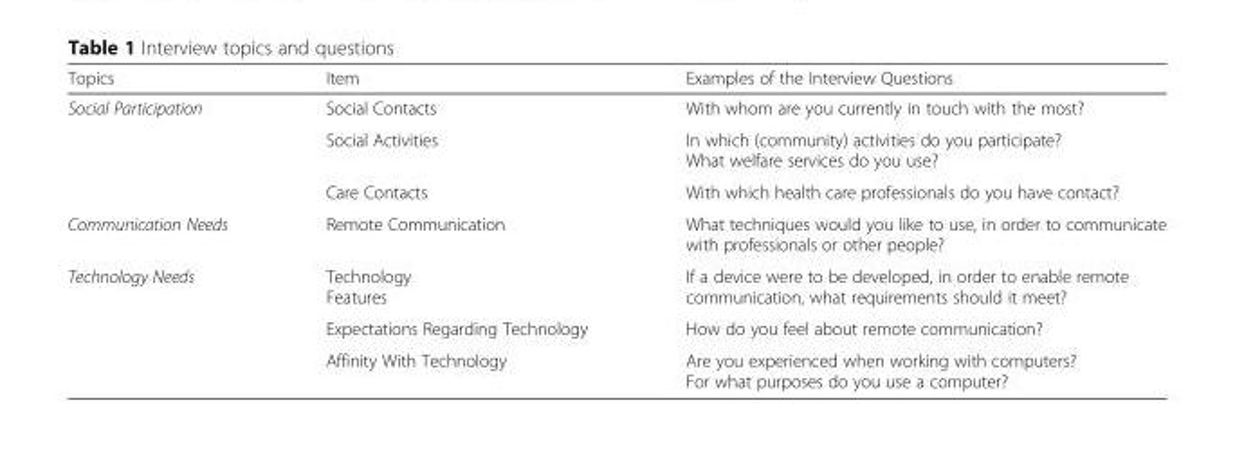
<table><thead><tr><td>Topics</td><td>Item</td><td>Examples of the Interview Questions</td></tr></thead><tbody><tr><td rowspan="3">Social Participation</td><td>Social Contacts</td><td>With whom are you currently in touch with the most?</td></tr><tr><td>Social Activities</td><td>In which (community) activities do you participate? What welfare services do you use?</td></tr><tr><td>Care Contacts</td><td>With which health care professionals do you have contact?</td></tr><tr><td>Communication Needs</td><td>Remote Communication</td><td>What techniques would you like to use, in order to communicate with professionals or other people?</td></tr><tr><td rowspan="3">Technology Needs</td><td>Technology Features</td><td>If a device were to be developed, in order to enable remote communication, what requirements should it meet?</td></tr><tr><td>Expectations Regarding Technology</td><td>How do you feel about remote communication?</td></tr><tr><td>Affinity With Technology</td><td>Are you experienced when working with computers? For what purposes do you use a computer?</td></tr></tbody></table>